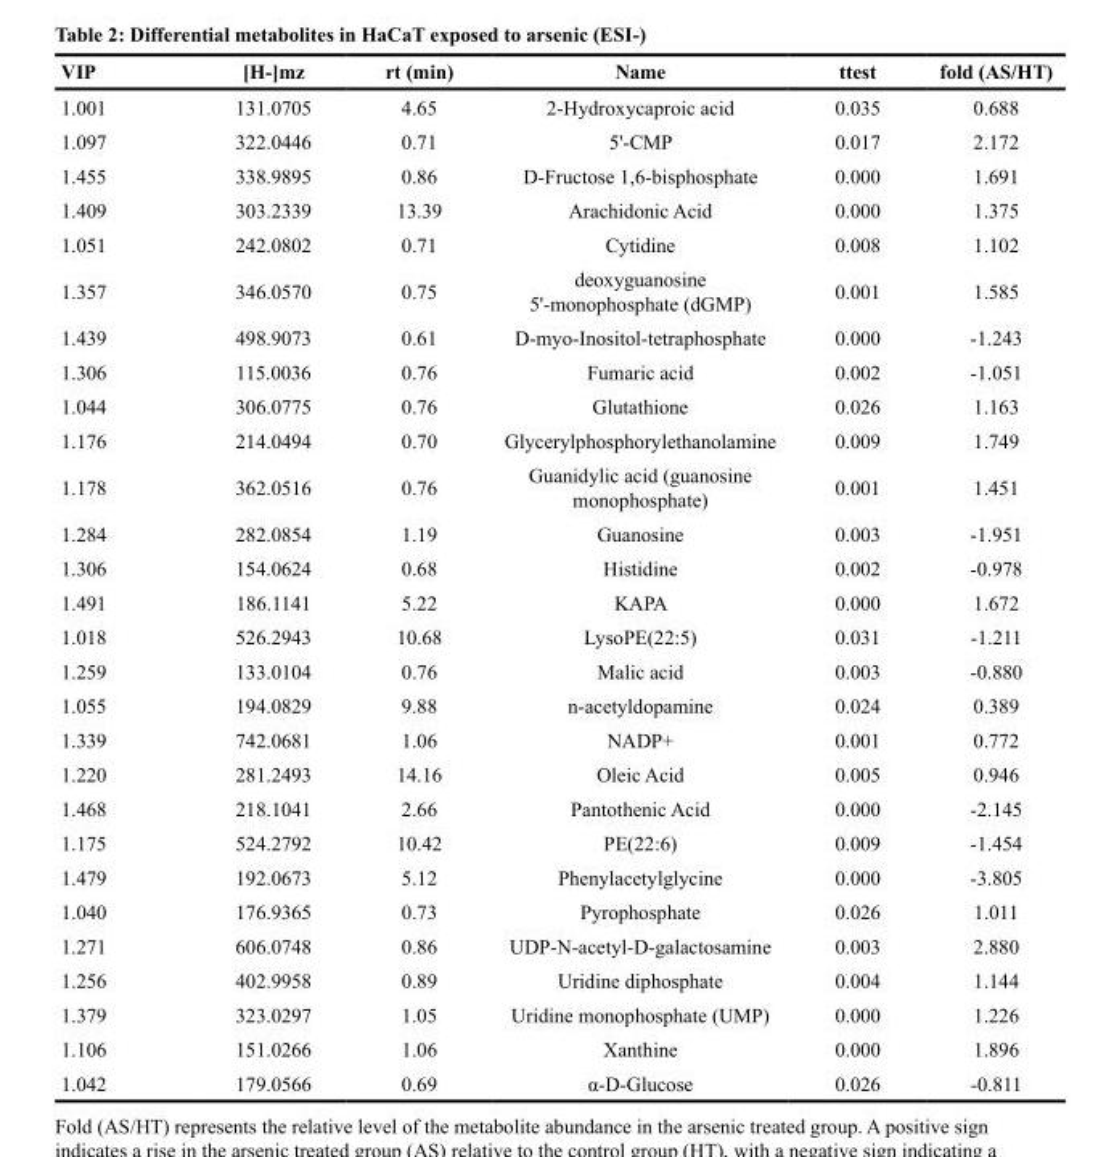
<table><thead><tr><td>VIP</td><td>[H-]mz</td><td>rt (min)</td><td>Name</td><td>ttest</td><td>fold (AS/HT)</td></tr></thead><tbody><tr><td>1.001</td><td>131.0705</td><td>4.65</td><td>2-Hydroxycaproic acid</td><td>0.035</td><td>0.688</td></tr><tr><td>1.097</td><td>322.0446</td><td>0.71</td><td>5&#x27;-CMP</td><td>0.017</td><td>2.172</td></tr><tr><td>1.455</td><td>338.9895</td><td>0.86</td><td>D-Fructose 1,6-bisphosphate</td><td>0.000</td><td>1.691</td></tr><tr><td>1.409</td><td>303.2339</td><td>13.39</td><td>Arachidonic Acid</td><td>0.000</td><td>1.375</td></tr><tr><td>1.051</td><td>242.0802</td><td>0.71</td><td>Cytidine</td><td>0.008</td><td>1.102</td></tr><tr><td>1.357</td><td>346.0570</td><td>0.75</td><td>deoxyguanosine 5&#x27;-monophosphate (dGMP)</td><td>0.001</td><td>1.585</td></tr><tr><td>1.439</td><td>498.9073</td><td>0.61</td><td>D-myo-Inositol-tetraphosphate</td><td>0.000</td><td>-1.243</td></tr><tr><td>1.306</td><td>115.0036</td><td>0.76</td><td>Fumaric acid</td><td>0.002</td><td>-1.051</td></tr><tr><td>1.044</td><td>306.0775</td><td>0.76</td><td>Glutathione</td><td>0.026</td><td>1.163</td></tr><tr><td>1.176</td><td>214.0494</td><td>0.70</td><td>Glycerylphosphorylethanolamine</td><td>0.009</td><td>1.749</td></tr><tr><td>1.178</td><td>362.0516</td><td>0.76</td><td>Guanidylic acid (guanosine monophosphate)</td><td>0.001</td><td>1.451</td></tr><tr><td>1.284</td><td>282.0854</td><td>1.19</td><td>Guanosine</td><td>0.003</td><td>-1.951</td></tr><tr><td>1.306</td><td>154.0624</td><td>0.68</td><td>Histidine</td><td>0.002</td><td>-0.978</td></tr><tr><td>1.491</td><td>186.1141</td><td>5.22</td><td>KAPA</td><td>0.000</td><td>1.672</td></tr><tr><td>1.018</td><td>526.2943</td><td>10.68</td><td>LysoPE(22:5)</td><td>0.031</td><td>-1.211</td></tr><tr><td>1.259</td><td>133.0104</td><td>0.76</td><td>Malic acid</td><td>0.003</td><td>-0.880</td></tr><tr><td>1.055</td><td>194.0829</td><td>9.88</td><td>n-acetyldopamine</td><td>0.024</td><td>0.389</td></tr><tr><td>1.339</td><td>742.0681</td><td>1.06</td><td>NADP+</td><td>0.001</td><td>0.772</td></tr><tr><td>1.220</td><td>281.2493</td><td>14.16</td><td>Oleic Acid</td><td>0.005</td><td>0.946</td></tr><tr><td>1.468</td><td>218.1041</td><td>2.66</td><td>Pantothenic Acid</td><td>0.000</td><td>-2.145</td></tr><tr><td>1.175</td><td>524.2792</td><td>10.42</td><td>PE(22:6)</td><td>0.009</td><td>-1.454</td></tr><tr><td>1.479</td><td>192.0673</td><td>5.12</td><td>Phenylacetylglycine</td><td>0.000</td><td>-3.805</td></tr><tr><td>1.040</td><td>176.9365</td><td>0.73</td><td>Pyrophosphate</td><td>0.026</td><td>1.011</td></tr><tr><td>1.271</td><td>606.0748</td><td>0.86</td><td>UDP-N-acetyl-D-galactosamine</td><td>0.003</td><td>2.880</td></tr><tr><td>1.256</td><td>402.9958</td><td>0.89</td><td>Uridine diphosphate</td><td>0.004</td><td>1.144</td></tr><tr><td>1.379</td><td>323.0297</td><td>1.05</td><td>Uridine monophosphate (UMP)</td><td>0.000</td><td>1.226</td></tr><tr><td>1.106</td><td>151.0266</td><td>1.06</td><td>Xanthine</td><td>0.000</td><td>1.896</td></tr><tr><td>1.042</td><td>179.0566</td><td>0.69</td><td>α-D-Glucose</td><td>0.026</td><td>-0.811</td></tr></tbody></table>